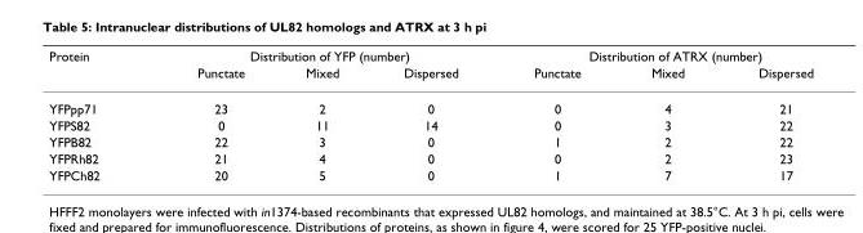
<table><thead><tr><td rowspan="2">Protein</td><td colspan="3">Distribution of YFP (number)</td><td colspan="3">Distribution of ATRX (number)</td></tr><tr><td>Punctate</td><td>Mixed</td><td>Dispersed</td><td>Punctate</td><td>Mixed</td><td>Dispersed</td></tr></thead><tbody><tr><td>YFPpp71</td><td>23</td><td>2</td><td>0</td><td>0</td><td>4</td><td>21</td></tr><tr><td>YFPS82</td><td>0</td><td>11</td><td>14</td><td>0</td><td>3</td><td>22</td></tr><tr><td>YFPB82</td><td>22</td><td>3</td><td>0</td><td>1</td><td>2</td><td>22</td></tr><tr><td>YFPRh82</td><td>21</td><td>4</td><td>0</td><td>0</td><td>2</td><td>23</td></tr><tr><td>YFPCh82</td><td>20</td><td>5</td><td>0</td><td>1</td><td>7</td><td>17</td></tr></tbody></table>